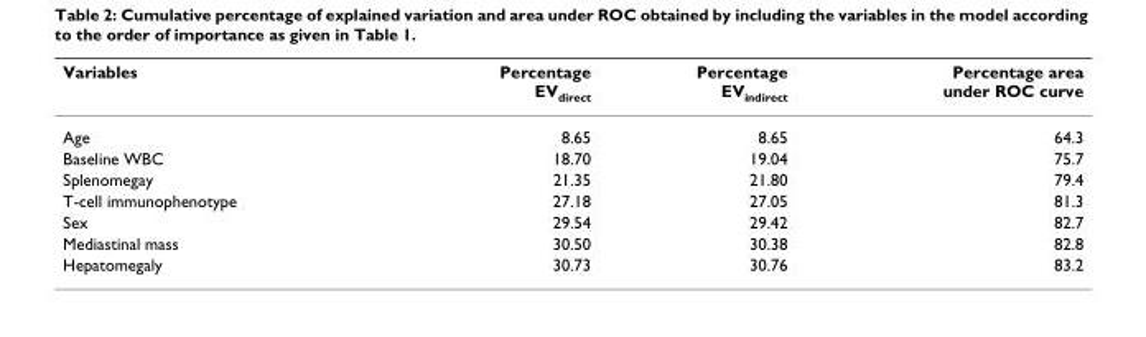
<table><thead><tr><td>Variables</td><td>Percentage EV<sub>direct</sub></td><td>Percentage EV<sub>indirect</sub></td><td>Percentage area under ROC curve</td></tr></thead><tbody><tr><td>Age</td><td>8.65</td><td>8.65</td><td>64.3</td></tr><tr><td>Baseline WBC</td><td>18.70</td><td>19.04</td><td>75.7</td></tr><tr><td>Splenomegay</td><td>21.35</td><td>21.80</td><td>79.4</td></tr><tr><td>T-cell immunophenotype</td><td>27.18</td><td>27.05</td><td>81.3</td></tr><tr><td>Sex</td><td>29.54</td><td>29.42</td><td>82.7</td></tr><tr><td>Mediastinal mass</td><td>30.50</td><td>30.38</td><td>82.8</td></tr><tr><td>Hepatomegaly</td><td>30.73</td><td>30.76</td><td>83.2</td></tr></tbody></table>